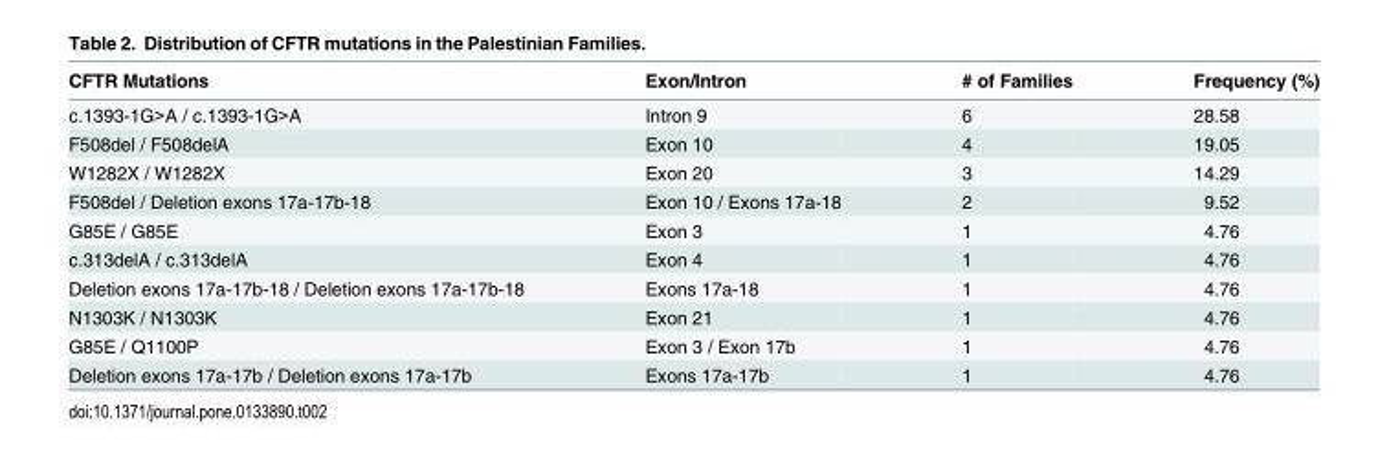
<table><thead><tr><td>CFTR Mutations</td><td>Exon/Intron</td><td># of Families</td><td>Frequency (%)</td></tr></thead><tbody><tr><td>c.1393-1G&gt;A / c.1393-1G&gt;A</td><td>Intron 9</td><td>6</td><td>28.58</td></tr><tr><td>F508del / F508delA</td><td>Exon 10</td><td>4</td><td>19.05</td></tr><tr><td>W1282X / W1282X</td><td>Exon 20</td><td>3</td><td>14.29</td></tr><tr><td>F508del / Deletion exons 17a-17b-18</td><td>Exon 10 / Exons 17a-18</td><td>2</td><td>9.52</td></tr><tr><td>G85E / G85E</td><td>Exon 3</td><td>1</td><td>4.76</td></tr><tr><td>c.313delA / c.313delA</td><td>Exon 4</td><td>1</td><td>4.76</td></tr><tr><td>Deletion exons 17a-17b-18 / Deletion exons 17a-17b-18</td><td>Exons 17a-18</td><td>1</td><td>4.76</td></tr><tr><td>N1303K / N1303K</td><td>Exon 21</td><td>1</td><td>4.76</td></tr><tr><td>G85E / Q1100P</td><td>Exon 3 / Exon 17b</td><td>1</td><td>4.76</td></tr><tr><td>Deletion exons 17a-17b / Deletion exons 17a-17b</td><td>Exons 17a-17b</td><td>1</td><td>4.76</td></tr></tbody></table>